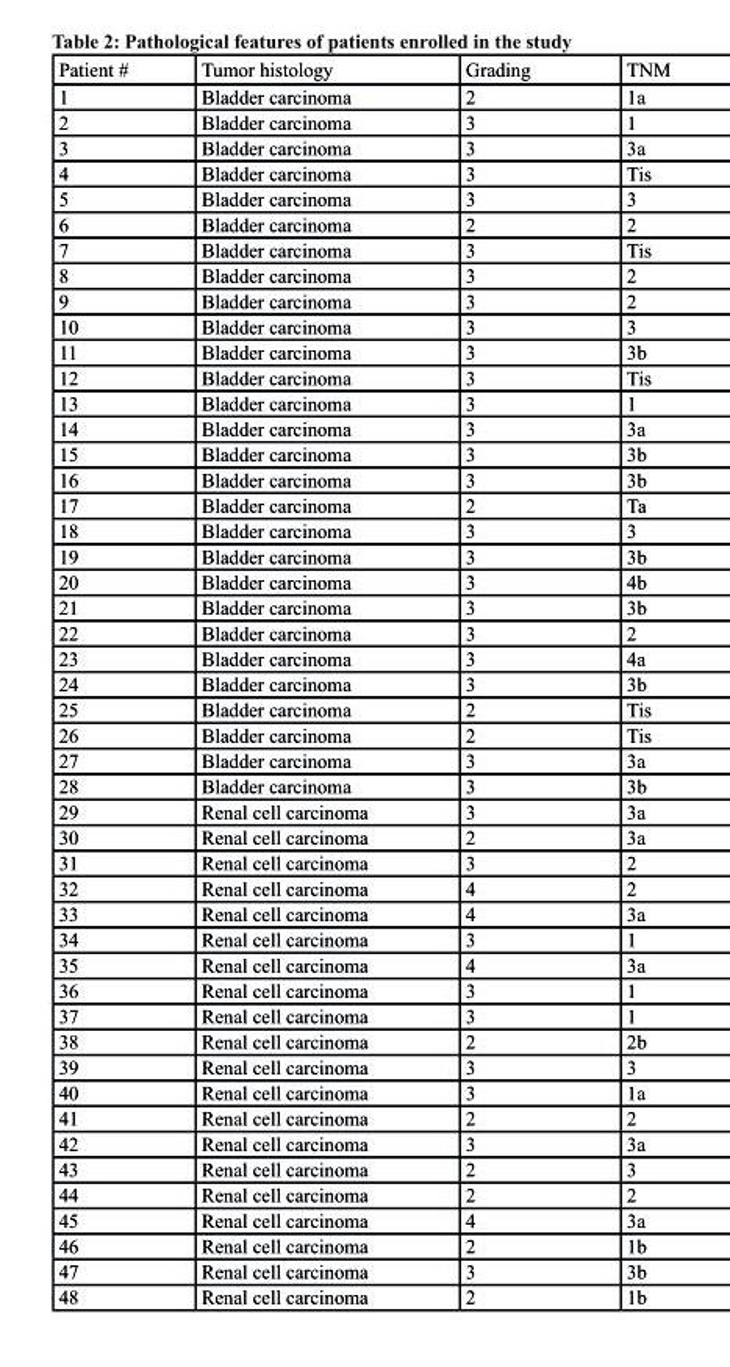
<table><thead><tr><td>Patient #</td><td>Tumor histology</td><td>Grading</td><td>TNM</td></tr></thead><tbody><tr><td>1</td><td>Bladder carcinoma</td><td>2</td><td>1a</td></tr><tr><td>2</td><td>Bladder carcinoma</td><td>3</td><td>1</td></tr><tr><td>3</td><td>Bladder carcinoma</td><td>3</td><td>3a</td></tr><tr><td>4</td><td>Bladder carcinoma</td><td>3</td><td>Tis</td></tr><tr><td>5</td><td>Bladder carcinoma</td><td>3</td><td>3</td></tr><tr><td>6</td><td>Bladder carcinoma</td><td>2</td><td>2</td></tr><tr><td>7</td><td>Bladder carcinoma</td><td>3</td><td>Tis</td></tr><tr><td>8</td><td>Bladder carcinoma</td><td>3</td><td>2</td></tr><tr><td>9</td><td>Bladder carcinoma</td><td>3</td><td>2</td></tr><tr><td>10</td><td>Bladder carcinoma</td><td>3</td><td>3</td></tr><tr><td>11</td><td>Bladder carcinoma</td><td>3</td><td>3b</td></tr><tr><td>12</td><td>Bladder carcinoma</td><td>3</td><td>Tis</td></tr><tr><td>13</td><td>Bladder carcinoma</td><td>3</td><td>1</td></tr><tr><td>14</td><td>Bladder carcinoma</td><td>3</td><td>3a</td></tr><tr><td>15</td><td>Bladder carcinoma</td><td>3</td><td>3b</td></tr><tr><td>16</td><td>Bladder carcinoma</td><td>3</td><td>3b</td></tr><tr><td>17</td><td>Bladder carcinoma</td><td>2</td><td>Ta</td></tr><tr><td>18</td><td>Bladder carcinoma</td><td>3</td><td>3</td></tr><tr><td>19</td><td>Bladder carcinoma</td><td>3</td><td>3b</td></tr><tr><td>20</td><td>Bladder carcinoma</td><td>3</td><td>4b</td></tr><tr><td>21</td><td>Bladder carcinoma</td><td>3</td><td>3b</td></tr><tr><td>22</td><td>Bladder carcinoma</td><td>3</td><td>2</td></tr><tr><td>23</td><td>Bladder carcinoma</td><td>3</td><td>4a</td></tr><tr><td>24</td><td>Bladder carcinoma</td><td>3</td><td>3b</td></tr><tr><td>25</td><td>Bladder carcinoma</td><td>2</td><td>Tis</td></tr><tr><td>26</td><td>Bladder carcinoma</td><td>2</td><td>Tis</td></tr><tr><td>27</td><td>Bladder carcinoma</td><td>3</td><td>3a</td></tr><tr><td>28</td><td>Bladder carcinoma</td><td>3</td><td>3b</td></tr><tr><td>29</td><td>Renal cell carcinoma</td><td>3</td><td>3a</td></tr><tr><td>30</td><td>Renal cell carcinoma</td><td>2</td><td>3a</td></tr><tr><td>31</td><td>Renal cell carcinoma</td><td>3</td><td>2</td></tr><tr><td>32</td><td>Renal cell carcinoma</td><td>4</td><td>2</td></tr><tr><td>33</td><td>Renal cell carcinoma</td><td>4</td><td>3a</td></tr><tr><td>34</td><td>Renal cell carcinoma</td><td>3</td><td>1</td></tr><tr><td>35</td><td>Renal cell carcinoma</td><td>4</td><td>3a</td></tr><tr><td>36</td><td>Renal cell carcinoma</td><td>3</td><td>1</td></tr><tr><td>37</td><td>Renal cell carcinoma</td><td>3</td><td>1</td></tr><tr><td>38</td><td>Renal cell carcinoma</td><td>2</td><td>2b</td></tr><tr><td>39</td><td>Renal cell carcinoma</td><td>3</td><td>3</td></tr><tr><td>40</td><td>Renal cell carcinoma</td><td>3</td><td>1a</td></tr><tr><td>41</td><td>Renal cell carcinoma</td><td>2</td><td>2</td></tr><tr><td>42</td><td>Renal cell carcinoma</td><td>3</td><td>3a</td></tr><tr><td>43</td><td>Renal cell carcinoma</td><td>2</td><td>3</td></tr><tr><td>44</td><td>Renal cell carcinoma</td><td>2</td><td>2</td></tr><tr><td>45</td><td>Renal cell carcinoma</td><td>4</td><td>3a</td></tr><tr><td>46</td><td>Renal cell carcinoma</td><td>2</td><td>1b</td></tr><tr><td>47</td><td>Renal cell carcinoma</td><td>3</td><td>3b</td></tr><tr><td>48</td><td>Renal cell carcinoma</td><td>2</td><td>1b</td></tr></tbody></table>